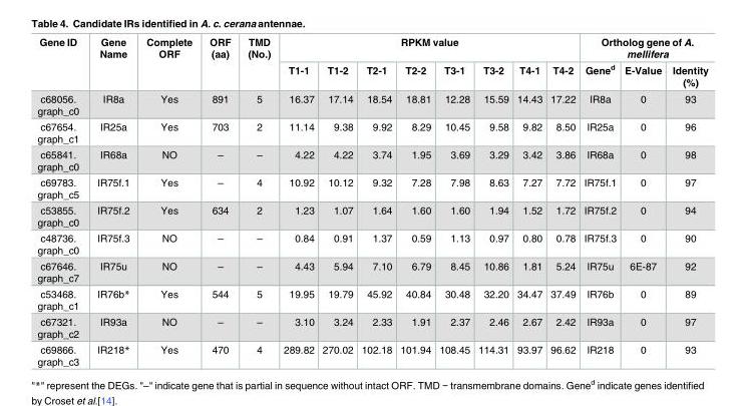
<table><thead><tr><td rowspan="2">Gene ID</td><td rowspan="2">Gene Name</td><td rowspan="2">Complete ORF</td><td rowspan="2">ORF (aa)</td><td rowspan="2">TMD (No.)</td><td colspan="8">RPKM value</td><td colspan="3">Ortholog gene of A. mellifera</td></tr><tr><td>T1-1</td><td>T1-2</td><td>T2-1</td><td>T2-2</td><td>T3-1</td><td>T3-2</td><td>T4-1</td><td>T4-2</td><td>Gene<sup>d</sup></td><td>E-Value</td><td>Identity (%)</td></tr></thead><tbody><tr><td>c68056. graph_c0</td><td>IR8a</td><td>Yes</td><td>891</td><td>5</td><td>16.37</td><td>17.14</td><td>18.54</td><td>18.81</td><td>12.28</td><td>15.59</td><td>14.43</td><td>17.22</td><td>IR8a</td><td>0</td><td>93</td></tr><tr><td>c67654. graph_c1</td><td>IR25a</td><td>Yes</td><td>703</td><td>2</td><td>11.14</td><td>9.38</td><td>9.92</td><td>8.29</td><td>10.45</td><td>9.58</td><td>9.82</td><td>8.50</td><td>IR25a</td><td>0</td><td>96</td></tr><tr><td>c65841. graph_c0</td><td>IR68a</td><td>NO</td><td>–</td><td>–</td><td>4.22</td><td>4.22</td><td>3.74</td><td>1.95</td><td>3.69</td><td>3.29</td><td>3.42</td><td>3.86</td><td>IR68a</td><td>0</td><td>98</td></tr><tr><td>c69783. graph_c5</td><td>IR75f.1</td><td>Yes</td><td>–</td><td>4</td><td>10.92</td><td>10.12</td><td>9.32</td><td>7.28</td><td>7.98</td><td>8.63</td><td>7.27</td><td>7.72</td><td>IR75f.1</td><td>0</td><td>97</td></tr><tr><td>c53855. graph_c0</td><td>IR75f.2</td><td>Yes</td><td>634</td><td>2</td><td>1.23</td><td>1.07</td><td>1.64</td><td>1.60</td><td>1.60</td><td>1.94</td><td>1.52</td><td>1.72</td><td>IR75f.2</td><td>0</td><td>94</td></tr><tr><td>c48736. graph_c0</td><td>IR75f.3</td><td>NO</td><td>–</td><td>–</td><td>0.84</td><td>0.91</td><td>1.37</td><td>0.59</td><td>1.13</td><td>0.97</td><td>0.80</td><td>0.78</td><td>IR75f.3</td><td>0</td><td>90</td></tr><tr><td>c67646. graph_c7</td><td>IR75u</td><td>NO</td><td>–</td><td>–</td><td>4.43</td><td>5.94</td><td>7.10</td><td>6.79</td><td>8.45</td><td>10.86</td><td>1.81</td><td>5.24</td><td>IR75u</td><td>6E-87</td><td>92</td></tr><tr><td>c53468. graph_c1</td><td>IR76b*</td><td>Yes</td><td>544</td><td>5</td><td>19.95</td><td>19.79</td><td>45.92</td><td>40.84</td><td>30.48</td><td>32.20</td><td>34.47</td><td>37.49</td><td>IR76b</td><td>0</td><td>89</td></tr><tr><td>c67321. graph_c2</td><td>IR93a</td><td>NO</td><td>–</td><td>–</td><td>3.10</td><td>3.24</td><td>2.33</td><td>1.91</td><td>2.37</td><td>2.46</td><td>2.67</td><td>2.42</td><td>IR93a</td><td>0</td><td>97</td></tr><tr><td>c69866. graph_c3</td><td>IR218*</td><td>Yes</td><td>470</td><td>4</td><td>289.82</td><td>270.02</td><td>102.18</td><td>101.94</td><td>108.45</td><td>114.31</td><td>93.97</td><td>96.62</td><td>IR218</td><td>0</td><td>93</td></tr></tbody></table>